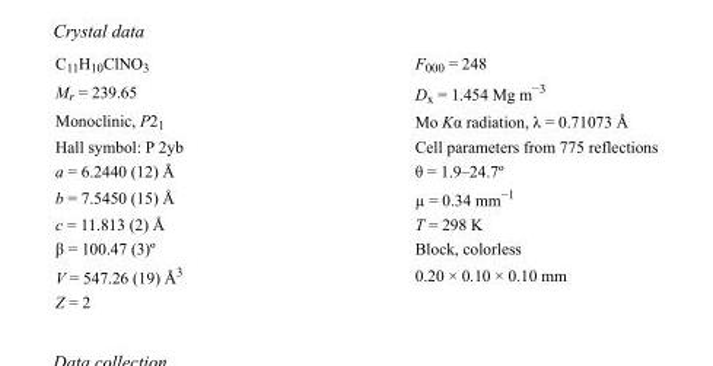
<table><tbody><tr><td>C<sub>11</sub>H<sub>10</sub>ClNO<sub>3</sub></td><td>F000 = 248</td></tr><tr><td>M<sub>r</sub> = 239.65</td><td>D<sub>x</sub> = 1.454 Mg m<sup>−3</sup></td></tr><tr><td>Monoclinic, P2<sub>1</sub></td><td>Mo Kα radiation, λ = 0.71073 Å</td></tr><tr><td>Hall symbol: P 2yb</td><td>Cell parameters from 775 reflections</td></tr><tr><td>a = 6.2440 (12) Å</td><td>θ = 1.9–24.7º</td></tr><tr><td>b = 7.5450 (15) Å</td><td>µ = 0.34 mm<sup>−1</sup></td></tr><tr><td>c = 11.813 (2) Å</td><td>T = 298 K</td></tr><tr><td>β = 100.47 (3)º</td><td>Block, colorless</td></tr><tr><td>V = 547.26 (19) Å<sup>3</sup></td><td>0.20 × 0.10 × 0.10 mm</td></tr><tr><td>Z = 2</td><td></td></tr></tbody></table>